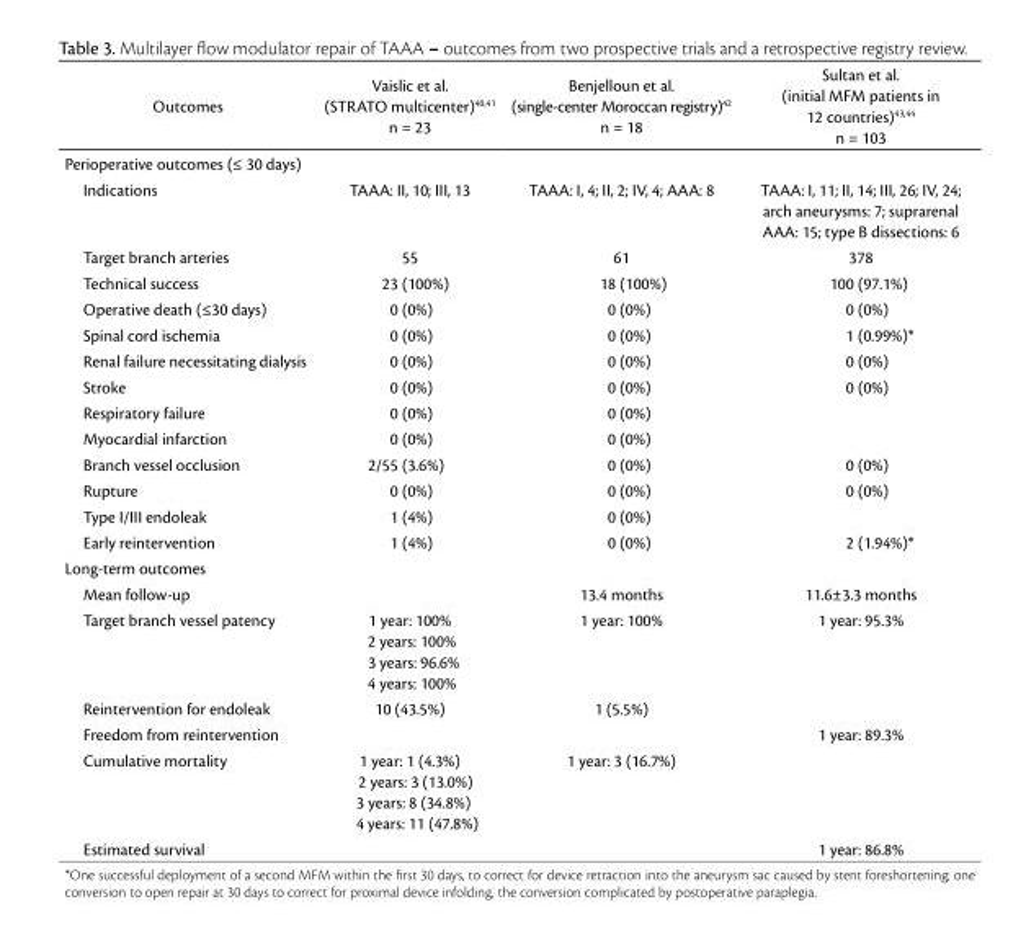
<table><thead><tr><td>Outcomes</td><td>Vaislic et al. (STRATO multicenter)<sup>40,</sup>41 n = 23</td><td>Benjelloun et al. (single-center Moroccan registry)<sup>42</sup> n = 18</td><td>Sultan et al. (initial MFM patients in 12 countries)<sup>43,</sup>44 n = 103</td></tr></thead><tbody><tr><td colspan="4">Perioperative outcomes (≤ 30 days)</td></tr><tr><td>Indications</td><td>TAAA: II, 10; III, 13</td><td>TAAA: I, 4; II, 2; IV, 4; AAA: 8</td><td>TAAA: I, 11; II, 14; III, 26; IV, 24; arch aneurysms: 7; suprarenal AAA: 15; type B dissections: 6</td></tr><tr><td>Target branch arteries</td><td>55</td><td>61</td><td>378</td></tr><tr><td>Technical success</td><td>23 (100%)</td><td>18 (100%)</td><td>100 (97.1%)</td></tr><tr><td>Operative death (≤30 days)</td><td>0 (0%)</td><td>0 (0%)</td><td>0 (0%)</td></tr><tr><td>Spinal cord ischemia</td><td>0 (0%)</td><td>0 (0%)</td><td>1 (0.99%)*</td></tr><tr><td>Renal failure necessitating dialysis</td><td>0 (0%)</td><td>0 (0%)</td><td>0 (0%)</td></tr><tr><td>Stroke</td><td>0 (0%)</td><td>0 (0%)</td><td>0 (0%)</td></tr><tr><td>Respiratory failure</td><td>0 (0%)</td><td>0 (0%)</td><td></td></tr><tr><td>Myocardial infarction</td><td>0 (0%)</td><td>0 (0%)</td><td></td></tr><tr><td>Branch vessel occlusion</td><td>2/55 (3.6%)</td><td>0 (0%)</td><td>0 (0%)</td></tr><tr><td>Rupture</td><td>0 (0%)</td><td>0 (0%)</td><td>0 (0%)</td></tr><tr><td>Type I/III endoleak</td><td>1 (4%)</td><td>0 (0%)</td><td></td></tr><tr><td>Early reintervention</td><td>1 (4%)</td><td>0 (0%)</td><td>2 (1.94%)*</td></tr><tr><td colspan="4">Long-term outcomes</td></tr><tr><td>Mean follow-up</td><td></td><td>13.4 months</td><td>11.6±3.3 months</td></tr><tr><td>Target branch vessel patency</td><td>1 year: 100% 2 years: 100% 3 years: 96.6% 4 years: 100%</td><td>1 year: 100%</td><td>1 year: 95.3%</td></tr><tr><td>Reintervention for endoleak</td><td>10 (43.5%)</td><td>1 (5.5%)</td><td></td></tr><tr><td>Freedom from reintervention</td><td></td><td></td><td>1 year: 89.3%</td></tr><tr><td>Cumulative mortality</td><td>1 year: 1 (4.3%) 2 years: 3 (13.0%) 3 years: 8 (34.8%) 4 years: 11 (47.8%)</td><td>1 year: 3 (16.7%)</td><td></td></tr><tr><td>Estimated survival</td><td></td><td></td><td>1 year: 86.8%</td></tr></tbody></table>